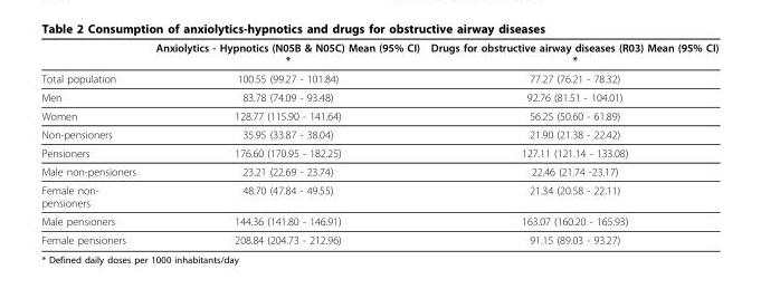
<table><thead><tr><td></td><td>Anxiolytics - Hypnotics (N05B &amp; N05C) Mean (95% CI) *</td><td>Drugs for obstructive airway diseases (R03) Mean (95% CI) *</td></tr></thead><tbody><tr><td>Total population</td><td>100.55 (99.27 - 101.84)</td><td>77.27 (76.21 - 78.32)</td></tr><tr><td>Men</td><td>83.78 (74.09 - 93.48)</td><td>92.76 (81.51 - 104.01)</td></tr><tr><td>Women</td><td>128.77 (115.90 - 141.64)</td><td>56.25 (50.60 - 61.89)</td></tr><tr><td>Non-pensioners</td><td>35.95 (33.87 - 38.04)</td><td>21.90 (21.38 - 22.42)</td></tr><tr><td>Pensioners</td><td>176.60 (170.95 - 182.25)</td><td>127.11 (121.14 - 133.08)</td></tr><tr><td>Male non-pensioners</td><td>23.21 (22.69 - 23.74)</td><td>22.46 (21.74 -23.17)</td></tr><tr><td>Female non- pensioners</td><td>48.70 (47.84 - 49.55)</td><td>21.34 (20.58 - 22.11)</td></tr><tr><td>Male pensioners</td><td>144.36 (141.80 - 146.91)</td><td>163.07 (160.20 - 165.93)</td></tr><tr><td>Female pensioners</td><td>208.84 (204.73 - 212.96)</td><td>91.15 (89.03 - 93.27)</td></tr></tbody></table>